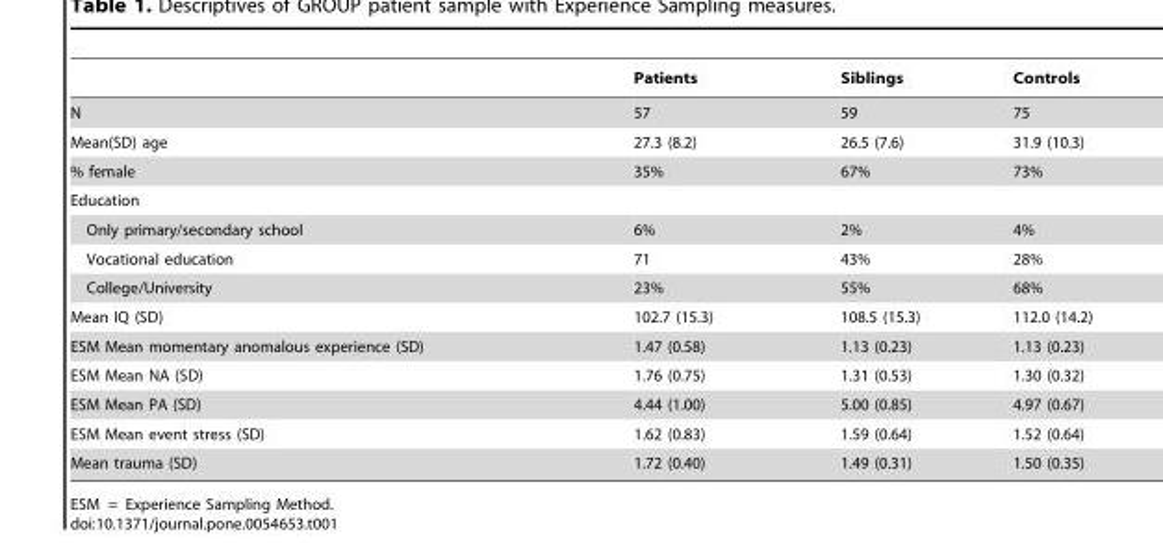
<table><thead><tr><td></td><td>Patients</td><td>Siblings</td><td>Controls</td></tr></thead><tbody><tr><td>N</td><td>57</td><td>59</td><td>75</td></tr><tr><td>Mean(SD) age</td><td>27.3 (8.2)</td><td>26.5 (7.6)</td><td>31.9 (10.3)</td></tr><tr><td>% female</td><td>35%</td><td>67%</td><td>73%</td></tr><tr><td colspan="4">Education</td></tr><tr><td>Only primary/secondary school</td><td>6%</td><td>2%</td><td>4%</td></tr><tr><td>Vocational education</td><td>71</td><td>43%</td><td>28%</td></tr><tr><td>College/University</td><td>23%</td><td>55%</td><td>68%</td></tr><tr><td>Mean IQ (SD)</td><td>102.7 (15.3)</td><td>108.5 (15.3)</td><td>112.0 (14.2)</td></tr><tr><td>ESM Mean momentary anomalous experience (SD)</td><td>1.47 (0.58)</td><td>1.13 (0.23)</td><td>1.13 (0.23)</td></tr><tr><td>ESM Mean NA (SD)</td><td>1.76 (0.75)</td><td>1.31 (0.53)</td><td>1.30 (0.32)</td></tr><tr><td>ESM Mean PA (SD)</td><td>4.44 (1.00)</td><td>5.00 (0.85)</td><td>4.97 (0.67)</td></tr><tr><td>ESM Mean event stress (SD)</td><td>1.62 (0.83)</td><td>1.59 (0.64)</td><td>1.52 (0.64)</td></tr><tr><td>Mean trauma (SD)</td><td>1.72 (0.40)</td><td>1.49 (0.31)</td><td>1.50 (0.35)</td></tr></tbody></table>